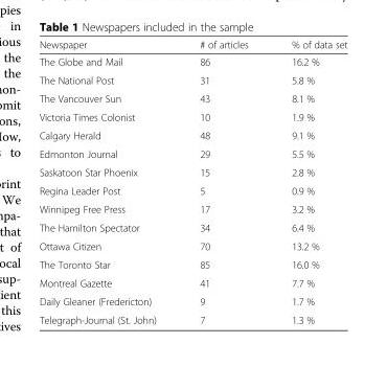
<table><thead><tr><td>Newspaper</td><td># of articles</td><td>% of data set</td></tr></thead><tbody><tr><td>The Globe and Mail</td><td>86</td><td>16.2 %</td></tr><tr><td>The National Post</td><td>31</td><td>5.8 %</td></tr><tr><td>The Vancouver Sun</td><td>43</td><td>8.1 %</td></tr><tr><td>Victoria Times Colonist</td><td>10</td><td>1.9 %</td></tr><tr><td>Calgary Herald</td><td>48</td><td>9.1 %</td></tr><tr><td>Edmonton Journal</td><td>29</td><td>5.5 %</td></tr><tr><td>Saskatoon Star Phoenix</td><td>15</td><td>2.8 %</td></tr><tr><td>Regina Leader Post</td><td>5</td><td>0.9 %</td></tr><tr><td>Winnipeg Free Press</td><td>17</td><td>3.2 %</td></tr><tr><td>The Hamilton Spectator</td><td>34</td><td>6.4 %</td></tr><tr><td>Ottawa Citizen</td><td>70</td><td>13.2 %</td></tr><tr><td>The Toronto Star</td><td>85</td><td>16.0 %</td></tr><tr><td>Montreal Gazette</td><td>41</td><td>7.7 %</td></tr><tr><td>Daily Gleaner (Fredericton)</td><td>9</td><td>1.7 %</td></tr><tr><td>Telegraph-Journal (St. John)</td><td>7</td><td>1.3 %</td></tr></tbody></table>